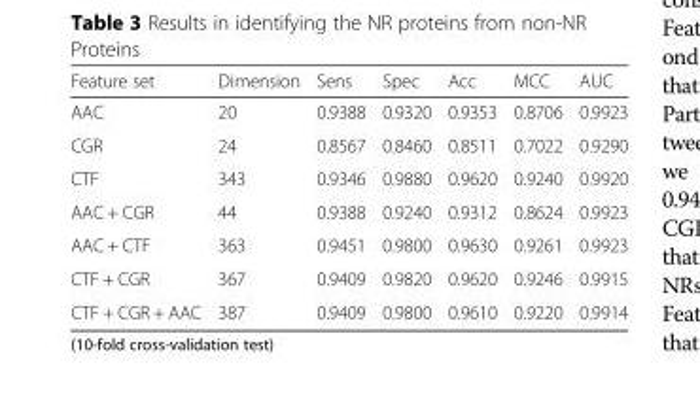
<table><thead><tr><td>Feature set</td><td>Dimension</td><td>Sens</td><td>Spec</td><td>Acc</td><td>MCC</td><td>AUC</td></tr></thead><tbody><tr><td>AAC</td><td>20</td><td>0.9388</td><td>0.9320</td><td>0.9353</td><td>0.8706</td><td>0.9923</td></tr><tr><td>CGR</td><td>24</td><td>0.8567</td><td>0.8460</td><td>0.8511</td><td>0.7022</td><td>0.9290</td></tr><tr><td>CTF</td><td>343</td><td>0.9346</td><td>0.9880</td><td>0.9620</td><td>0.9240</td><td>0.9920</td></tr><tr><td>AAC + CGR</td><td>44</td><td>0.9388</td><td>0.9240</td><td>0.9312</td><td>0.8624</td><td>0.9923</td></tr><tr><td>AAC + CTF</td><td>363</td><td>0.9451</td><td>0.9800</td><td>0.9630</td><td>0.9261</td><td>0.9923</td></tr><tr><td>CTF + CGR</td><td>367</td><td>0.9409</td><td>0.9820</td><td>0.9620</td><td>0.9246</td><td>0.9915</td></tr><tr><td>CTF + CGR + AAC</td><td>387</td><td>0.9409</td><td>0.9800</td><td>0.9610</td><td>0.9220</td><td>0.9914</td></tr></tbody></table>